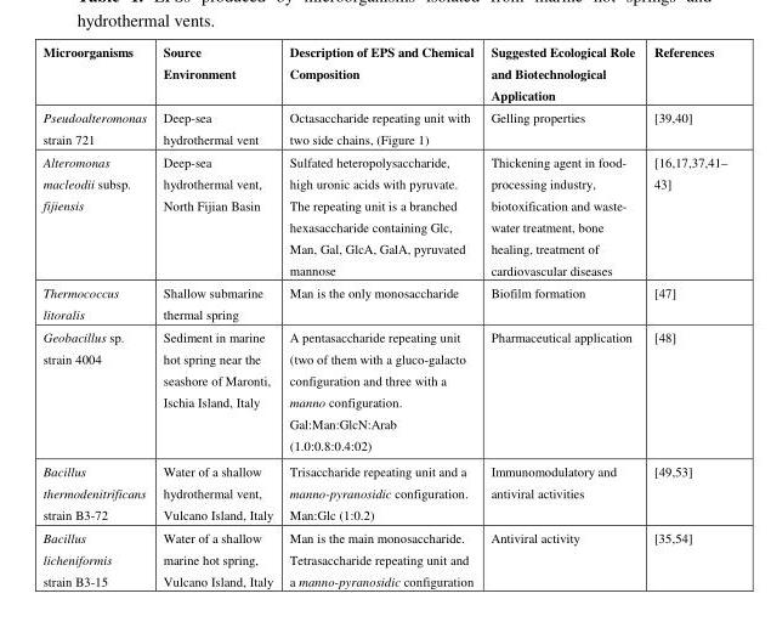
<table><thead><tr><td>Microorganisms</td><td>Source Environment</td><td>Description of EPS and Chemical Composition</td><td>Suggested Ecological Role and Biotechnological Application</td><td>References</td></tr></thead><tbody><tr><td>Pseudoalteromonas strain 721</td><td>Deep-sea hydrothermal vent</td><td>Octasaccharide repeating unit with two side chains, (Figure 1)</td><td>Gelling properties</td><td>[39,40]</td></tr><tr><td>Alteromonas macleodii subsp. fijiensis</td><td>Deep-sea hydrothermal vent, North Fijian Basin</td><td>Sulfated heteropolysaccharide, high uronic acids with pyruvate. The repeating unit is a branched hexasaccharide containing Glc, Man, Gal, GlcA, GalA, pyruvated mannose</td><td>Thickening agent in food- processing industry, biotoxification and waste- water treatment, bone healing, treatment of cardiovascular diseases</td><td>[16,17,37,41– 43]</td></tr><tr><td>Thermococcus litoralis</td><td>Shallow submarine thermal spring</td><td>Man is the only monosaccharide</td><td>Biofilm formation</td><td>[47]</td></tr><tr><td>Geobacillus sp. strain 4004</td><td>Sediment in marine hot spring near the seashore of Maronti, Ischia Island, Italy</td><td>A pentasaccharide repeating unit (two of them with a gluco-galacto configuration and three with a manno configuration. Gal:Man:GlcN:Arab (1.0:0.8:0.4:02)</td><td>Pharmaceutical application</td><td>[48]</td></tr><tr><td>Bacillus thermodenitrificans strain B3-72</td><td>Water of a shallow hydrothermal vent, Vulcano Island, Italy</td><td>Trisaccharide repeating unit and a manno-pyranosidic configuration. Man:Glc (1:0.2)</td><td>Immunomodulatory and antiviral activities</td><td>[49,53]</td></tr><tr><td>Bacillus licheniformis strain B3-15</td><td>Water of a shallow marine hot spring, Vulcano Island, Italy</td><td>Man is the main monosaccharide. Tetrasaccharide repeating unit and a manno-pyranosidic configuration</td><td>Antiviral activity</td><td>[35,54]</td></tr></tbody></table>